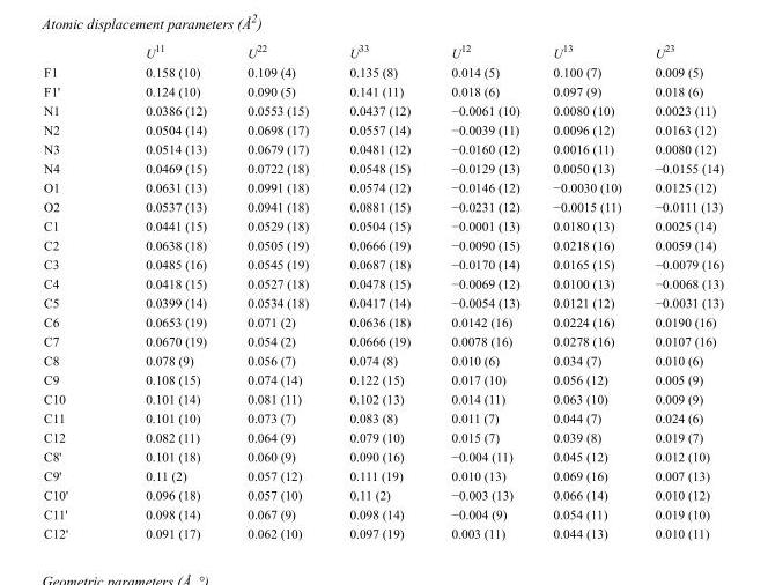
<table><thead><tr><td></td><td>U<sup>11</sup></td><td>U<sup>22</sup></td><td>U<sup>33</sup></td><td>U<sup>12</sup></td><td>U<sup>13</sup></td><td>U<sup>23</sup></td></tr></thead><tbody><tr><td>F1</td><td>0.158 (10)</td><td>0.109 (4)</td><td>0.135 (8)</td><td>0.014 (5)</td><td>0.100 (7)</td><td>0.009 (5)</td></tr><tr><td>F1&#x27;</td><td>0.124 (10)</td><td>0.090 (5)</td><td>0.141 (11)</td><td>0.018 (6)</td><td>0.097 (9)</td><td>0.018 (6)</td></tr><tr><td>N1</td><td>0.0386 (12)</td><td>0.0553 (15)</td><td>0.0437 (12)</td><td>−0.0061 (10)</td><td>0.0080 (10)</td><td>0.0023 (11)</td></tr><tr><td>N2</td><td>0.0504 (14)</td><td>0.0698 (17)</td><td>0.0557 (14)</td><td>−0.0039 (11)</td><td>0.0096 (12)</td><td>0.0163 (12)</td></tr><tr><td>N3</td><td>0.0514 (13)</td><td>0.0679 (17)</td><td>0.0481 (12)</td><td>−0.0160 (12)</td><td>0.0016 (11)</td><td>0.0080 (12)</td></tr><tr><td>N4</td><td>0.0469 (15)</td><td>0.0722 (18)</td><td>0.0548 (15)</td><td>−0.0129 (13)</td><td>0.0050 (13)</td><td>−0.0155 (14)</td></tr><tr><td>O1</td><td>0.0631 (13)</td><td>0.0991 (18)</td><td>0.0574 (12)</td><td>−0.0146 (12)</td><td>−0.0030 (10)</td><td>0.0125 (12)</td></tr><tr><td>O2</td><td>0.0537 (13)</td><td>0.0941 (18)</td><td>0.0881 (15)</td><td>−0.0231 (12)</td><td>−0.0015 (11)</td><td>−0.0111 (13)</td></tr><tr><td>C1</td><td>0.0441 (15)</td><td>0.0529 (18)</td><td>0.0504 (15)</td><td>−0.0001 (13)</td><td>0.0180 (13)</td><td>0.0025 (14)</td></tr><tr><td>C2</td><td>0.0638 (18)</td><td>0.0505 (19)</td><td>0.0666 (19)</td><td>−0.0090 (15)</td><td>0.0218 (16)</td><td>0.0059 (14)</td></tr><tr><td>C3</td><td>0.0485 (16)</td><td>0.0545 (19)</td><td>0.0687 (18)</td><td>−0.0170 (14)</td><td>0.0165 (15)</td><td>−0.0079 (16)</td></tr><tr><td>C4</td><td>0.0418 (15)</td><td>0.0527 (18)</td><td>0.0478 (15)</td><td>−0.0069 (12)</td><td>0.0100 (13)</td><td>−0.0068 (13)</td></tr><tr><td>C5</td><td>0.0399 (14)</td><td>0.0534 (18)</td><td>0.0417 (14)</td><td>−0.0054 (13)</td><td>0.0121 (12)</td><td>−0.0031 (13)</td></tr><tr><td>C6</td><td>0.0653 (19)</td><td>0.071 (2)</td><td>0.0636 (18)</td><td>0.0142 (16)</td><td>0.0224 (16)</td><td>0.0190 (16)</td></tr><tr><td>C7</td><td>0.0670 (19)</td><td>0.054 (2)</td><td>0.0666 (19)</td><td>0.0078 (16)</td><td>0.0278 (16)</td><td>0.0107 (16)</td></tr><tr><td>C8</td><td>0.078 (9)</td><td>0.056 (7)</td><td>0.074 (8)</td><td>0.010 (6)</td><td>0.034 (7)</td><td>0.010 (6)</td></tr><tr><td>C9</td><td>0.108 (15)</td><td>0.074 (14)</td><td>0.122 (15)</td><td>0.017 (10)</td><td>0.056 (12)</td><td>0.005 (9)</td></tr><tr><td>C10</td><td>0.101 (14)</td><td>0.081 (11)</td><td>0.102 (13)</td><td>0.014 (11)</td><td>0.063 (10)</td><td>0.009 (9)</td></tr><tr><td>C11</td><td>0.101 (10)</td><td>0.073 (7)</td><td>0.083 (8)</td><td>0.011 (7)</td><td>0.044 (7)</td><td>0.024 (6)</td></tr><tr><td>C12</td><td>0.082 (11)</td><td>0.064 (9)</td><td>0.079 (10)</td><td>0.015 (7)</td><td>0.039 (8)</td><td>0.019 (7)</td></tr><tr><td>C8&#x27;</td><td>0.101 (18)</td><td>0.060 (9)</td><td>0.090 (16)</td><td>−0.004 (11)</td><td>0.045 (12)</td><td>0.012 (10)</td></tr><tr><td>C9&#x27;</td><td>0.11 (2)</td><td>0.057 (12)</td><td>0.111 (19)</td><td>0.010 (13)</td><td>0.069 (16)</td><td>0.007 (13)</td></tr><tr><td>C10&#x27;</td><td>0.096 (18)</td><td>0.057 (10)</td><td>0.11 (2)</td><td>−0.003 (13)</td><td>0.066 (14)</td><td>0.010 (12)</td></tr><tr><td>C11&#x27;</td><td>0.098 (14)</td><td>0.067 (9)</td><td>0.098 (14)</td><td>−0.004 (9)</td><td>0.054 (11)</td><td>0.019 (10)</td></tr><tr><td>C12&#x27;</td><td>0.091 (17)</td><td>0.062 (10)</td><td>0.097 (19)</td><td>0.003 (11)</td><td>0.044 (13)</td><td>0.010 (11)</td></tr></tbody></table>